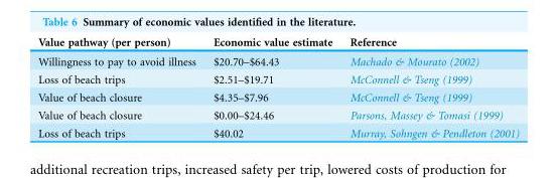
<table><thead><tr><td>Value pathway (per person)</td><td>Economic value estimate</td><td>Reference</td></tr></thead><tbody><tr><td>Willingness to pay to avoid illness</td><td>$20.70–$64.43</td><td>Machado &amp; Mourato (2002)</td></tr><tr><td>Loss of beach trips</td><td>$2.51–$19.71</td><td>McConnell &amp; Tseng (1999)</td></tr><tr><td>Value of beach closure</td><td>$4.35–$7.96</td><td>McConnell &amp; Tseng (1999)</td></tr><tr><td>Value of beach closure</td><td>$0.00–$24.46</td><td>Parsons, Massey &amp; Tomasi (1999)</td></tr><tr><td>Loss of beach trips</td><td>$40.02</td><td>Murray, Sohngen &amp; Pendleton (2001)</td></tr></tbody></table>